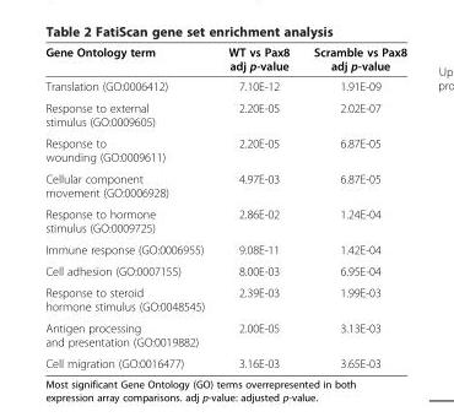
<table><thead><tr><td>Gene Ontology term</td><td>WT vs Pax8 adj p-value</td><td>Scramble vs Pax8 adj p-value</td></tr></thead><tbody><tr><td>Translation (GO:0006412)</td><td>7.10E-12</td><td>1.91E-09</td></tr><tr><td>Response to external stimulus (GO:0009605)</td><td>2.20E-05</td><td>2.02E-07</td></tr><tr><td>Response to wounding (GO:0009611)</td><td>2.20E-05</td><td>6.87E-05</td></tr><tr><td>Cellular component movement (GO:0006928)</td><td>4.97E-03</td><td>6.87E-05</td></tr><tr><td>Response to hormone stimulus (GO:0009725)</td><td>2.86E-02</td><td>1.24E-04</td></tr><tr><td>Immune response (GO:0006955)</td><td>9.08E-11</td><td>1.42E-04</td></tr><tr><td>Cell adhesion (GO:0007155)</td><td>8.00E-03</td><td>6.95E-04</td></tr><tr><td>Response to steroid hormone stimulus (GO:0048545)</td><td>2.39E-03</td><td>1.99E-03</td></tr><tr><td>Antigen processing and presentation (GO:0019882)</td><td>2.00E-05</td><td>3.13E-03</td></tr><tr><td>Cell migration (GO:0016477)</td><td>3.16E-03</td><td>3.65E-03</td></tr></tbody></table>